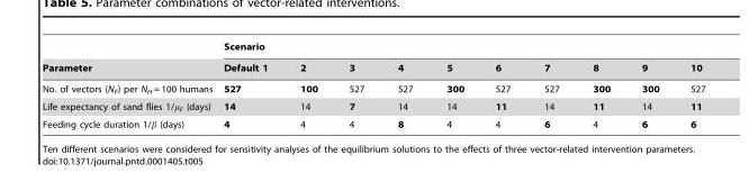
<table><thead><tr><td rowspan="2">Parameter</td><td colspan="10">Scenario</td></tr><tr><td>Default 1</td><td>2</td><td>3</td><td>4</td><td>5</td><td>6</td><td>7</td><td>8</td><td>9</td><td>10</td></tr></thead><tbody><tr><td>No. of vectors (N<sub>F</sub>) per N<sub>H</sub> = 100 humans</td><td>527</td><td>100</td><td>527</td><td>527</td><td>300</td><td>527</td><td>527</td><td>300</td><td>300</td><td>527</td></tr><tr><td>Life expectancy of sand flies 1/μ<sub>F</sub> (days)</td><td>14</td><td>14</td><td>7</td><td>14</td><td>14</td><td>11</td><td>14</td><td>11</td><td>14</td><td>11</td></tr><tr><td>Feeding cycle duration 1/β (days)</td><td>4</td><td>4</td><td>4</td><td>8</td><td>4</td><td>4</td><td>6</td><td>4</td><td>6</td><td>6</td></tr></tbody></table>